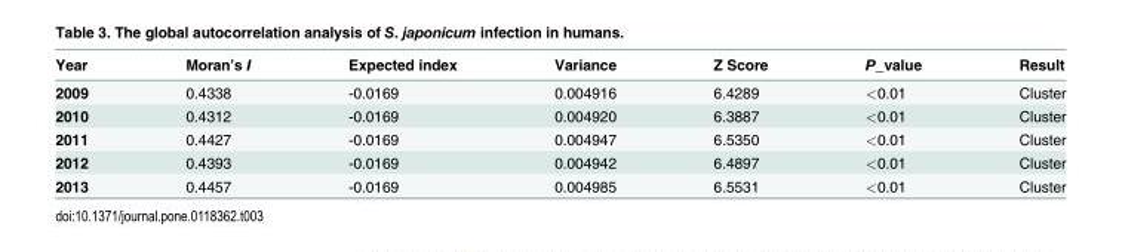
<table><thead><tr><td>Year</td><td>Moran’s I</td><td>Expected index</td><td>Variance</td><td>Z Score</td><td>P_value</td><td>Result</td></tr></thead><tbody><tr><td>2009</td><td>0.4338</td><td>-0.0169</td><td>0.004916</td><td>6.4289</td><td>&lt;0.01</td><td>Cluster</td></tr><tr><td>2010</td><td>0.4312</td><td>-0.0169</td><td>0.004920</td><td>6.3887</td><td>&lt;0.01</td><td>Cluster</td></tr><tr><td>2011</td><td>0.4427</td><td>-0.0169</td><td>0.004947</td><td>6.5350</td><td>&lt;0.01</td><td>Cluster</td></tr><tr><td>2012</td><td>0.4393</td><td>-0.0169</td><td>0.004942</td><td>6.4897</td><td>&lt;0.01</td><td>Cluster</td></tr><tr><td>2013</td><td>0.4457</td><td>-0.0169</td><td>0.004985</td><td>6.5531</td><td>&lt;0.01</td><td>Cluster</td></tr></tbody></table>